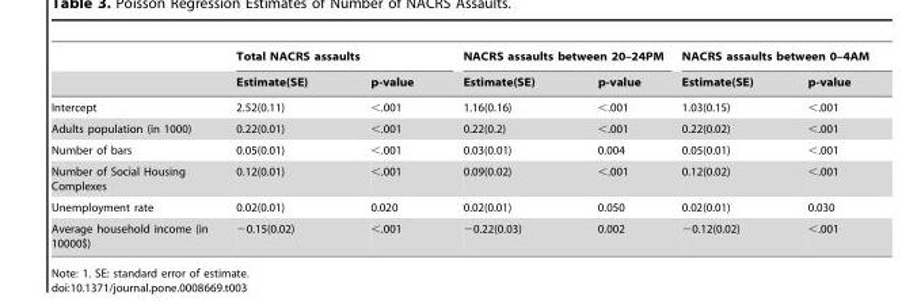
<table><thead><tr><td rowspan="2"></td><td colspan="2">Total NACRS assaults</td><td colspan="2">NACRS assaults between 20–24PM</td><td colspan="2">NACRS assaults between 0–4AM</td></tr><tr><td>Estimate(SE)</td><td>p-value</td><td>Estimate(SE)</td><td>p-value</td><td>Estimate(SE)</td><td>p-value</td></tr></thead><tbody><tr><td>Intercept</td><td>2.52(0.11)</td><td>&lt;.001</td><td>1.16(0.16)</td><td>&lt;.001</td><td>1.03(0.15)</td><td>&lt;.001</td></tr><tr><td>Adults population (in 1000)</td><td>0.22(0.01)</td><td>&lt;.001</td><td>0.22(0.2)</td><td>&lt;.001</td><td>0.22(0.02)</td><td>&lt;.001</td></tr><tr><td>Number of bars</td><td>0.05(0.01)</td><td>&lt;.001</td><td>0.03(0.01)</td><td>0.004</td><td>0.05(0.01)</td><td>&lt;.001</td></tr><tr><td>Number of Social Housing Complexes</td><td>0.12(0.01)</td><td>&lt;.001</td><td>0.09(0.02)</td><td>&lt;.001</td><td>0.12(0.02)</td><td>&lt;.001</td></tr><tr><td>Unemployment rate</td><td>0.02(0.01)</td><td>0.020</td><td>0.02(0.01)</td><td>0.050</td><td>0.02(0.01)</td><td>0.030</td></tr><tr><td>Average household income (in 10000$)</td><td>−0.15(0.02)</td><td>&lt;.001</td><td>−0.22(0.03)</td><td>0.002</td><td>−0.12(0.02)</td><td>&lt;.001</td></tr></tbody></table>